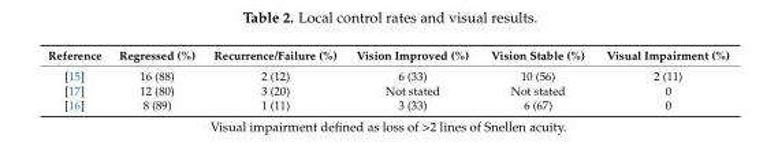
<table><thead><tr><td>Reference</td><td>Regressed (%)</td><td>Recurrence/Failure (%)</td><td>Vision Improved (%)</td><td>Vision Stable (%)</td><td>Visual Impairment (%)</td></tr></thead><tbody><tr><td>[15]</td><td>16 (88)</td><td>2 (12)</td><td>6 (33)</td><td>10 (56)</td><td>2 (11)</td></tr><tr><td>[17]</td><td>12 (80)</td><td>3 (20)</td><td>Not stated</td><td>Not stated</td><td>0</td></tr><tr><td>[16]</td><td>8 (89)</td><td>1 (11)</td><td>3 (33)</td><td>6 (67)</td><td>0</td></tr></tbody></table>